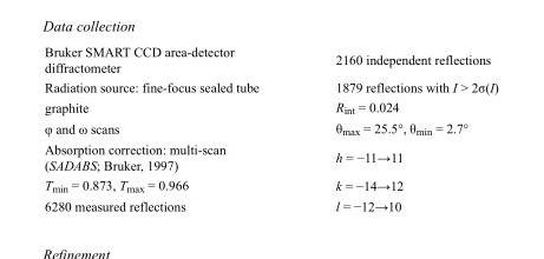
<table><tbody><tr><td>Bruker SMART CCD area-detector diffractometer</td><td>2160 independent reflections</td></tr><tr><td>Radiation source: fine-focus sealed tube</td><td>1879 reflections with I &gt; 2σ(I)</td></tr><tr><td>graphite</td><td>R<sub>int</sub> = 0.024</td></tr><tr><td>φ and ω scans</td><td>θ<sub>max</sub> = 25.5°, θ<sub>min</sub> = 2.7°</td></tr><tr><td>Absorption correction: multi-scan (SADABS; Bruker, 1997)</td><td>h = −11→11</td></tr><tr><td>T<sub>min</sub> = 0.873, T<sub>max</sub> = 0.966</td><td>k = −14→12</td></tr><tr><td>6280 measured reflections</td><td>l = −12→10</td></tr></tbody></table>